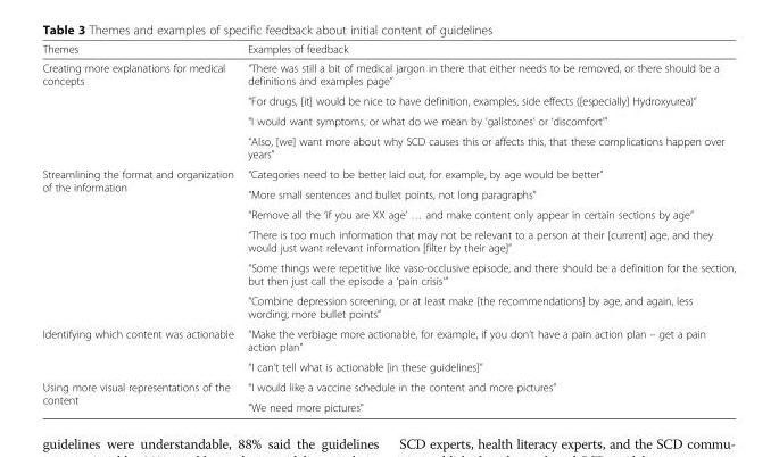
<table><thead><tr><td>Themes</td><td>Examples of feedback</td></tr></thead><tbody><tr><td rowspan="4">Creating more explanations for medical concepts</td><td>“There was still a bit of medical jargon in there that either needs to be removed, or there should be a definitions and examples page”</td></tr><tr><td>“For drugs, [it] would be nice to have definition, examples, side effects ([especially] Hydroxyurea)”</td></tr><tr><td>“I would want symptoms, or what do we mean by ‘gallstones’ or ‘discomfort’”</td></tr><tr><td>“Also, [we] want more about why SCD causes this or affects this, that these complications happen over years”</td></tr><tr><td rowspan="6">Streamlining the format and organization of the information</td><td>“Categories need to be better laid out, for example, by age would be better”</td></tr><tr><td>“More small sentences and bullet points, not long paragraphs”</td></tr><tr><td>“Remove all the ‘if you are XX age’ … and make content only appear in certain sections by age”</td></tr><tr><td>“There is too much information that may not be relevant to a person at their [current] age, and they would just want relevant information [filter by their age]”</td></tr><tr><td>“Some things were repetitive like vaso-occlusive episode, and there should be a definition for the section, but then just call the episode a ‘pain crisis’”</td></tr><tr><td>“Combine depression screening, or at least make [the recommendations] by age, and again, less wording, more bullet points”</td></tr><tr><td rowspan="2">Identifying which content was actionable</td><td>“Make the verbiage more actionable, for example, if you don’t have a pain action plan – get a pain action plan”</td></tr><tr><td>“I can’t tell what is actionable [in these guidelines]”</td></tr><tr><td rowspan="2">Using more visual representations of the content</td><td>“I would like a vaccine schedule in the content and more pictures”</td></tr><tr><td>“We need more pictures”</td></tr></tbody></table>